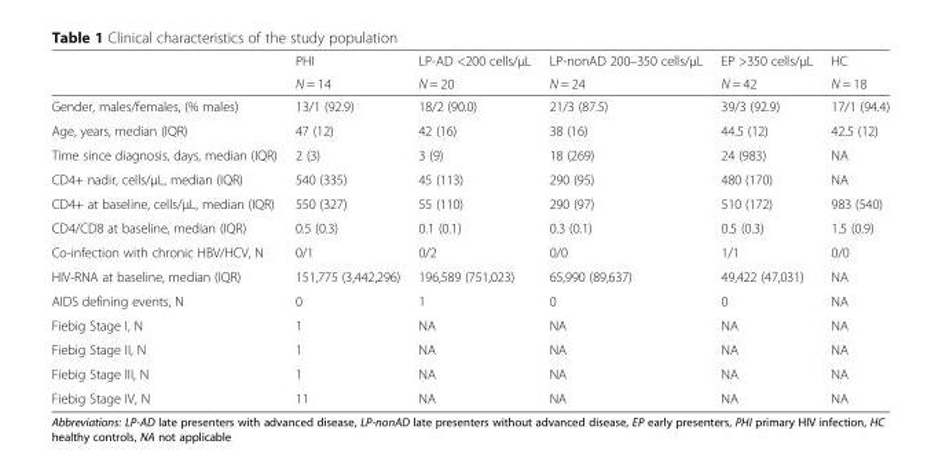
<table><thead><tr><td rowspan="2"></td><td rowspan="2">PHI N = 14</td><td rowspan="2">LP-AD &lt;200 cells/μL N = 20</td><td rowspan="2">LP-nonAD 200–350 cells/μL N = 24</td><td rowspan="2">EP &gt;350 cells/μL N = 42</td><td rowspan="2">HC N = 18</td></tr><tr></tr></thead><tbody><tr><td>Gender, males/females, (% males)</td><td>13/1 (92.9)</td><td>18/2 (90.0)</td><td>21/3 (87.5)</td><td>39/3 (92.9)</td><td>17/1 (94.4)</td></tr><tr><td>Age, years, median (IQR)</td><td>47 (12)</td><td>42 (16)</td><td>38 (16)</td><td>44.5 (12)</td><td>42.5 (12)</td></tr><tr><td>Time since diagnosis, days, median (IQR)</td><td>2 (3)</td><td>3 (9)</td><td>18 (269)</td><td>24 (983)</td><td>NA</td></tr><tr><td>CD4+ nadir, cells/μL, median (IQR)</td><td>540 (335)</td><td>45 (113)</td><td>290 (95)</td><td>480 (170)</td><td>NA</td></tr><tr><td>CD4+ at baseline, cells/μL, median (IQR)</td><td>550 (327)</td><td>55 (110)</td><td>290 (97)</td><td>510 (172)</td><td>983 (540)</td></tr><tr><td>CD4/CD8 at baseline, median (IQR)</td><td>0.5 (0.3)</td><td>0.1 (0.1)</td><td>0.3 (0.1)</td><td>0.5 (0.3)</td><td>1.5 (0.9)</td></tr><tr><td>Co-infection with chronic HBV/HCV, N</td><td>0/1</td><td>0/2</td><td>0/0</td><td>1/1</td><td>0/0</td></tr><tr><td>HIV-RNA at baseline, median (IQR)</td><td>151,775 (3,442,296)</td><td>196,589 (751,023)</td><td>65,990 (89,637)</td><td>49,422 (47,031)</td><td>NA</td></tr><tr><td>AIDS defining events, N</td><td>0</td><td>1</td><td>0</td><td>0</td><td>NA</td></tr><tr><td>Fiebig Stage I, N</td><td>1</td><td>NA</td><td>NA</td><td>NA</td><td>NA</td></tr><tr><td>Fiebig Stage II, N</td><td>1</td><td>NA</td><td>NA</td><td>NA</td><td>NA</td></tr><tr><td>Fiebig Stage III, N</td><td>1</td><td>NA</td><td>NA</td><td>NA</td><td>NA</td></tr><tr><td>Fiebig Stage IV, N</td><td>11</td><td>NA</td><td>NA</td><td>NA</td><td>NA</td></tr></tbody></table>